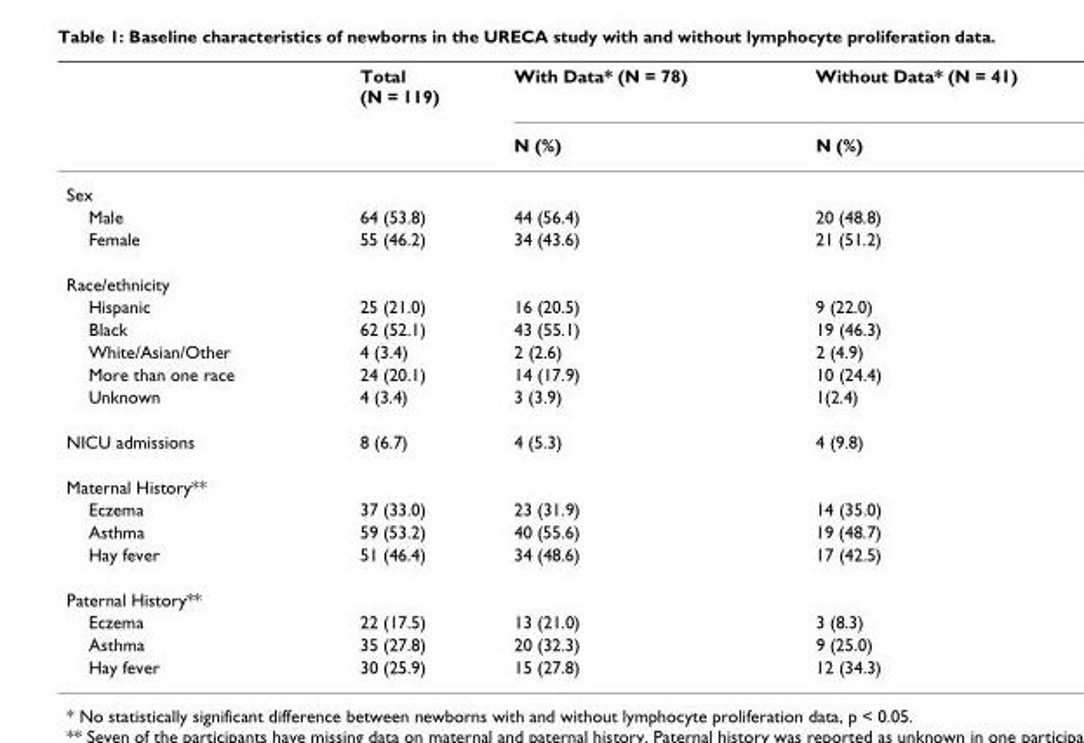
<table><thead><tr><td rowspan="2"></td><td rowspan="2">Total (N = 119)</td><td rowspan="2">With Data* (N = 78) N (%)</td><td rowspan="2">Without Data* (N = 41) N (%)</td></tr><tr></tr></thead><tbody><tr><td colspan="4">Sex</td></tr><tr><td>Male</td><td>64 (53.8)</td><td>44 (56.4)</td><td>20 (48.8)</td></tr><tr><td>Female</td><td>55 (46.2)</td><td>34 (43.6)</td><td>21 (51.2)</td></tr><tr><td colspan="4">Race/ethnicity</td></tr><tr><td>Hispanic</td><td>25 (21.0)</td><td>16 (20.5)</td><td>9 (22.0)</td></tr><tr><td>Black</td><td>62 (52.1)</td><td>43 (55.1)</td><td>19 (46.3)</td></tr><tr><td>White/Asian/Other</td><td>4 (3.4)</td><td>2 (2.6)</td><td>2 (4.9)</td></tr><tr><td>More than one race</td><td>24 (20.1)</td><td>14 (17.9)</td><td>10 (24.4)</td></tr><tr><td>Unknown</td><td>4 (3.4)</td><td>3 (3.9)</td><td>1(2.4)</td></tr><tr><td>NICU admissions</td><td>8 (6.7)</td><td>4 (5.3)</td><td>4 (9.8)</td></tr><tr><td colspan="4">Maternal History**</td></tr><tr><td>Eczema</td><td>37 (33.0)</td><td>23 (31.9)</td><td>14 (35.0)</td></tr><tr><td>Asthma</td><td>59 (53.2)</td><td>40 (55.6)</td><td>19 (48.7)</td></tr><tr><td>Hay fever</td><td>51 (46.4)</td><td>34 (48.6)</td><td>17 (42.5)</td></tr><tr><td colspan="4">Paternal History**</td></tr><tr><td>Eczema</td><td>22 (17.5)</td><td>13 (21.0)</td><td>3 (8.3)</td></tr><tr><td>Asthma</td><td>35 (27.8)</td><td>20 (32.3)</td><td>9 (25.0)</td></tr><tr><td>Hay fever</td><td>30 (25.9)</td><td>15 (27.8)</td><td>12 (34.3)</td></tr></tbody></table>